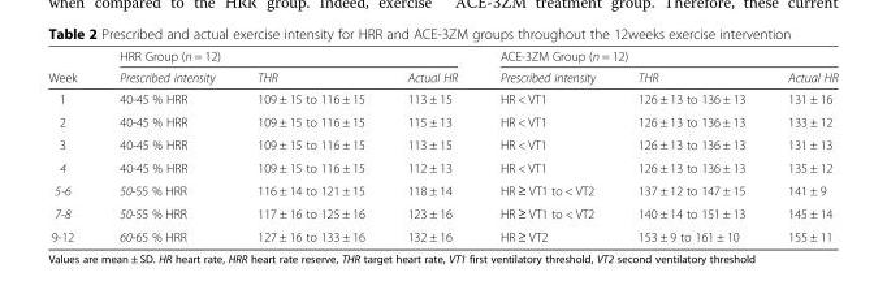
<table><thead><tr><td rowspan="2">Week</td><td colspan="3">HRR Group (n = 12)</td><td colspan="3">ACE-3ZM Group (n = 12)</td></tr><tr><td>Prescribed intensity</td><td>THR</td><td>Actual HR</td><td>Prescribed intensity</td><td>THR</td><td>Actual HR</td></tr></thead><tbody><tr><td>1</td><td>40-45 % HRR</td><td>109 ± 15 to 116 ± 15</td><td>113 ± 15</td><td>HR &lt; VT1</td><td>126 ± 13 to 136 ± 13</td><td>131 ± 16</td></tr><tr><td>2</td><td>40-45 % HRR</td><td>109 ± 15 to 116 ± 15</td><td>115 ± 13</td><td>HR &lt; VT1</td><td>126 ± 13 to 136 ± 13</td><td>133 ± 12</td></tr><tr><td>3</td><td>40-45 % HRR</td><td>109 ± 15 to 116 ± 15</td><td>113 ± 15</td><td>HR &lt; VT1</td><td>126 ± 13 to 136 ± 13</td><td>131 ± 13</td></tr><tr><td>4</td><td>40-45 % HRR</td><td>109 ± 15 to 116 ± 15</td><td>112 ± 13</td><td>HR &lt; VT1</td><td>126 ± 13 to 136 ± 13</td><td>135 ± 12</td></tr><tr><td>5-6</td><td>50-55 % HRR</td><td>116 ± 14 to 121 ± 15</td><td>118 ± 14</td><td>HR ≥ VT1 to &lt; VT2</td><td>137 ± 12 to 147 ± 15</td><td>141 ± 9</td></tr><tr><td>7-8</td><td>50-55 % HRR</td><td>117 ± 16 to 125 ± 16</td><td>123 ± 16</td><td>HR ≥ VT1 to &lt; VT2</td><td>140 ± 14 to 151 ± 13</td><td>145 ± 14</td></tr><tr><td>9-12</td><td>60-65 % HRR</td><td>127 ± 16 to 133 ± 16</td><td>132 ± 16</td><td>HR ≥ VT2</td><td>153 ± 9 to 161 ± 10</td><td>155 ± 11</td></tr></tbody></table>